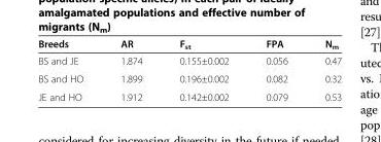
<table><thead><tr><td>Breeds</td><td>AR</td><td>F<sub>st</sub></td><td>FPA</td><td>N<sub>m</sub></td></tr></thead><tbody><tr><td>BS and JE</td><td>1.874</td><td>0.155±0.002</td><td>0.056</td><td>0.47</td></tr><tr><td>BS and HO</td><td>1.899</td><td>0.196±0.002</td><td>0.082</td><td>0.32</td></tr><tr><td>JE and HO</td><td>1.912</td><td>0.142±0.002</td><td>0.079</td><td>0.53</td></tr></tbody></table>